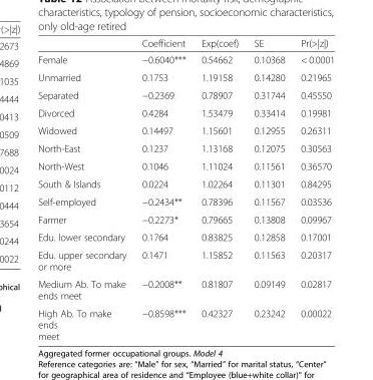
<table><thead><tr><td></td><td>Coefficient</td><td>Exp(coef)</td><td>SE</td><td>Pr(&gt;|z|)</td></tr></thead><tbody><tr><td>Female</td><td>−0.6040***</td><td>0.54662</td><td>0.10368</td><td>&lt; 0.0001</td></tr><tr><td>Unmarried</td><td>0.1753</td><td>1.19158</td><td>0.14280</td><td>0.21965</td></tr><tr><td>Separated</td><td>−0.2369</td><td>0.78907</td><td>0.31744</td><td>0.45550</td></tr><tr><td>Divorced</td><td>0.4284</td><td>1.53479</td><td>0.33414</td><td>0.19981</td></tr><tr><td>Widowed</td><td>0.14497</td><td>1.15601</td><td>0.12955</td><td>0.26311</td></tr><tr><td>North-East</td><td>0.1237</td><td>1.13168</td><td>0.12075</td><td>0.30563</td></tr><tr><td>North-West</td><td>0.1046</td><td>1.11024</td><td>0.11561</td><td>0.36570</td></tr><tr><td>South &amp; Islands</td><td>0.0224</td><td>1.02264</td><td>0.11301</td><td>0.84295</td></tr><tr><td>Self-employed</td><td>−0.2434**</td><td>0.78396</td><td>0.11567</td><td>0.03536</td></tr><tr><td>Farmer</td><td>−0.2273*</td><td>0.79665</td><td>0.13808</td><td>0.09967</td></tr><tr><td>Edu. lower secondary</td><td>0.1764</td><td>0.83825</td><td>0.12858</td><td>0.17001</td></tr><tr><td>Edu. upper secondary or more</td><td>0.1471</td><td>1.15852</td><td>0.11563</td><td>0.20317</td></tr><tr><td>Medium Ab. To make ends meet</td><td>−0.2008**</td><td>0.81807</td><td>0.09149</td><td>0.02817</td></tr><tr><td>High Ab. To make ends meet</td><td>−0.8598***</td><td>0.42327</td><td>0.23242</td><td>0.00022</td></tr></tbody></table>